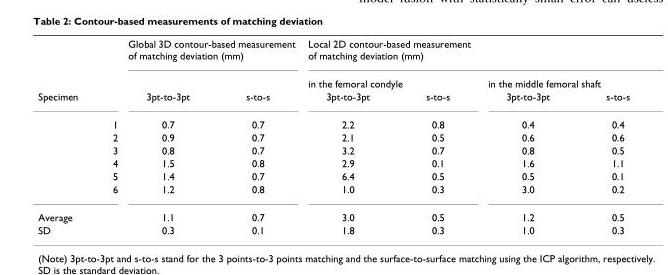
<table><thead><tr><td rowspan="3">Specimen</td><td colspan="2">Global 3D contour-based measurement of matching deviation (mm)</td><td rowspan="2" colspan="2">Local 2D contour-based measurement of matching deviation (mm) in the femoral condyle</td><td></td><td></td></tr><tr><td rowspan="2">3pt-to-3pt</td><td rowspan="2">s-to-s</td><td colspan="2">in the middle femoral shaft</td></tr><tr><td>3pt-to-3pt</td><td>s-to-s</td><td>3pt-to-3pt</td><td>s-to-s</td></tr></thead><tbody><tr><td>1</td><td>0.7</td><td>0.7</td><td>2.2</td><td>0.8</td><td>0.4</td><td>0.4</td></tr><tr><td>2</td><td>0.9</td><td>0.7</td><td>2.1</td><td>0.5</td><td>0.6</td><td>0.6</td></tr><tr><td>3</td><td>0.8</td><td>0.7</td><td>3.2</td><td>0.7</td><td>0.8</td><td>0.5</td></tr><tr><td>4</td><td>1.5</td><td>0.8</td><td>2.9</td><td>0.1</td><td>1.6</td><td>1.1</td></tr><tr><td>5</td><td>1.4</td><td>0.7</td><td>6.4</td><td>0.5</td><td>0.5</td><td>0.1</td></tr><tr><td>6</td><td>1.2</td><td>0.8</td><td>1.0</td><td>0.3</td><td>3.0</td><td>0.2</td></tr><tr><td>Average</td><td>1.1</td><td>0.7</td><td>3.0</td><td>0.5</td><td>1.2</td><td>0.5</td></tr><tr><td>SD</td><td>0.3</td><td>0.1</td><td>1.8</td><td>0.3</td><td>1.0</td><td>0.3</td></tr></tbody></table>